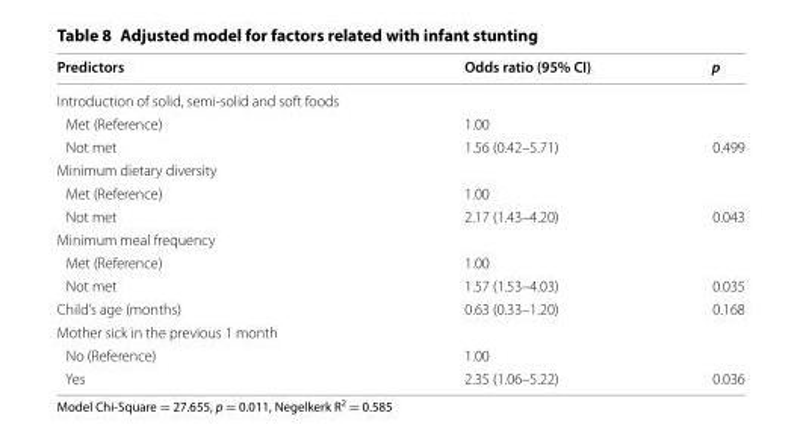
<table><thead><tr><td>Predictors</td><td>Odds ratio (95% CI)</td><td>p</td></tr></thead><tbody><tr><td colspan="3">Introduction of solid, semi-solid and soft foods</td></tr><tr><td>Met (Reference)</td><td>1.00</td><td></td></tr><tr><td>Not met</td><td>1.56 (0.42–5.71)</td><td>0.499</td></tr><tr><td colspan="3">Minimum dietary diversity</td></tr><tr><td>Met (Reference)</td><td>1.00</td><td></td></tr><tr><td>Not met</td><td>2.17 (1.43–4.20)</td><td>0.043</td></tr><tr><td colspan="3">Minimum meal frequency</td></tr><tr><td>Met (Reference)</td><td>1.00</td><td></td></tr><tr><td>Not met</td><td>1.57 (1.53–4.03)</td><td>0.035</td></tr><tr><td>Child’s age (months)</td><td>0.63 (0.33–1.20)</td><td>0.168</td></tr><tr><td colspan="3">Mother sick in the previous 1 month</td></tr><tr><td>No (Reference)</td><td>1.00</td><td></td></tr><tr><td>Yes</td><td>2.35 (1.06–5.22)</td><td>0.036</td></tr></tbody></table>